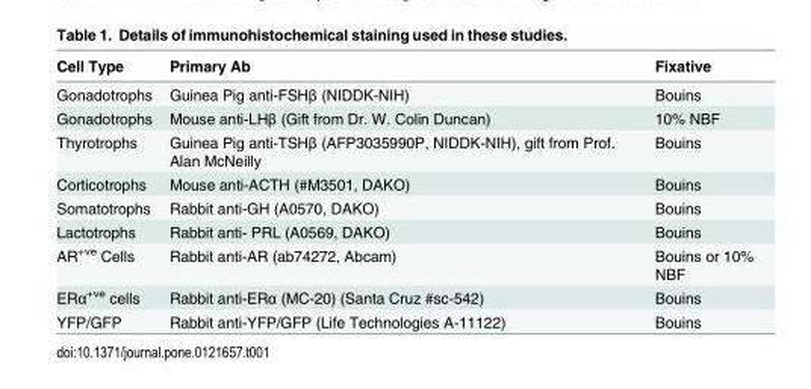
<table><thead><tr><td>Cell Type</td><td>Primary Ab</td><td>Fixative</td></tr></thead><tbody><tr><td>Gonadotrophs</td><td>Guinea Pig anti-FSHβ (NIDDK-NIH)</td><td>Bouins</td></tr><tr><td>Gonadotrophs</td><td>Mouse anti-LHβ (Gift from Dr. W. Colin Duncan)</td><td>10% NBF</td></tr><tr><td>Thyrotrophs</td><td>Guinea Pig anti-TSHβ (AFP3035990P, NIDDK-NIH), gift from Prof. Alan McNeilly</td><td>Bouins</td></tr><tr><td>Corticotrophs</td><td>Mouse anti-ACTH (#M3501, DAKO)</td><td>Bouins</td></tr><tr><td>Somatotrophs</td><td>Rabbit anti-GH (A0570, DAKO)</td><td>Bouins</td></tr><tr><td>Lactotrophs</td><td>Rabbit anti- PRL (A0569, DAKO)</td><td>Bouins</td></tr><tr><td>AR<sup>+ve</sup> Cells</td><td>Rabbit anti-AR (ab74272, Abcam)</td><td>Bouins or 10% NBF</td></tr><tr><td>ERα<sup>+ve</sup> cells</td><td>Rabbit anti-ERα (MC-20) (Santa Cruz #sc-542)</td><td>Bouins</td></tr><tr><td>YFP/GFP</td><td>Rabbit anti-YFP/GFP (Life Technologies A-11122)</td><td>Bouins</td></tr></tbody></table>